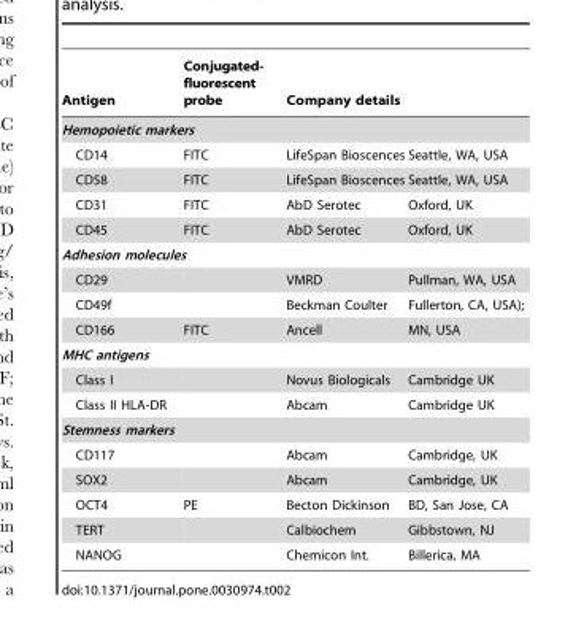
<table><thead><tr><td>Antigen</td><td>Conjugated- fluorescent probe</td><td colspan="2">Company details</td></tr><tr><td colspan="4">Hemopoietic markers</td></tr><tr><td>CD14</td><td>FITC</td><td>LifeSpan Bioscences</td><td>Seattle, WA, USA</td></tr></thead><tbody><tr><td>CD58</td><td>FITC</td><td>LifeSpan Bioscences</td><td>Seattle, WA, USA</td></tr><tr><td>CD31</td><td>FITC</td><td>AbD Serotec</td><td>Oxford, UK</td></tr><tr><td>CD45</td><td>FITC</td><td>AbD Serotec</td><td>Oxford, UK</td></tr><tr><td colspan="4">Adhesion molecules</td></tr><tr><td>CD29</td><td></td><td>VMRD</td><td>Pullman, WA, USA</td></tr><tr><td>CD49f</td><td></td><td>Beckman Coulter</td><td>Fullerton, CA, USA);</td></tr><tr><td>CD166</td><td>FITC</td><td>Ancell</td><td>MN, USA</td></tr><tr><td colspan="4">MHC antigens</td></tr><tr><td>Class I</td><td></td><td>Novus Biologicals</td><td>Cambridge UK</td></tr><tr><td>Class II HLA-DR</td><td></td><td>Abcam</td><td>Cambridge UK</td></tr><tr><td colspan="4">Stemness markers</td></tr><tr><td>CD117</td><td></td><td>Abcam</td><td>Cambridge, UK</td></tr><tr><td>SOX2</td><td></td><td>Abcam</td><td>Cambridge, UK</td></tr><tr><td>OCT4</td><td>PE</td><td>Becton Dickinson</td><td>BD, San Jose, CA</td></tr><tr><td>TERT</td><td></td><td>Calbiochem</td><td>Gibbstown, NJ</td></tr><tr><td>NANOG</td><td></td><td>Chemicon Int.</td><td>Billerica, MA</td></tr></tbody></table>